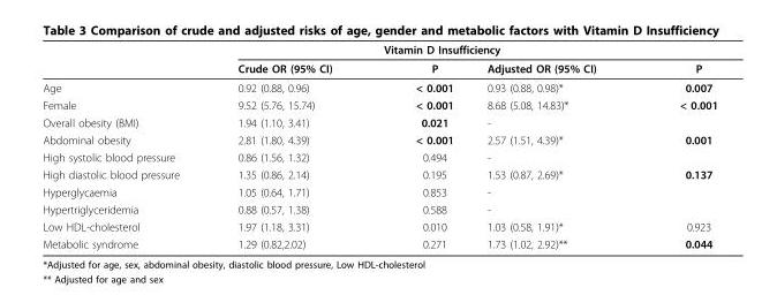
<table><thead><tr><td rowspan="2"></td><td colspan="3">Vitamin D Insufficiency</td><td rowspan="2">P</td></tr><tr><td>Crude OR (95% CI)</td><td>P</td><td>Adjusted OR (95% CI)</td></tr></thead><tbody><tr><td>Age</td><td>0.92 (0.88, 0.96)</td><td>&lt; 0.001</td><td>0.93 (0.88, 0.98)*</td><td>0.007</td></tr><tr><td>Female</td><td>9.52 (5.76, 15.74)</td><td>&lt; 0.001</td><td>8.68 (5.08, 14.83)*</td><td>&lt; 0.001</td></tr><tr><td>Overall obesity (BMI)</td><td>1.94 (1.10, 3.41)</td><td>0.021</td><td>-</td><td></td></tr><tr><td>Abdominal obesity</td><td>2.81 (1.80, 4.39)</td><td>&lt; 0.001</td><td>2.57 (1.51, 4.39)*</td><td>0.001</td></tr><tr><td>High systolic blood pressure</td><td>0.86 (1.56, 1.32)</td><td>0.494</td><td>-</td><td></td></tr><tr><td>High diastolic blood pressure</td><td>1.35 (0.86, 2.14)</td><td>0.195</td><td>1.53 (0.87, 2.69)*</td><td>0.137</td></tr><tr><td>Hyperglycaemia</td><td>1.05 (0.64, 1.71)</td><td>0.853</td><td>-</td><td></td></tr><tr><td>Hypertriglyceridemia</td><td>0.88 (0.57, 1.38)</td><td>0.588</td><td>-</td><td></td></tr><tr><td>Low HDL-cholesterol</td><td>1.97 (1.18, 3.31)</td><td>0.010</td><td>1.03 (0.58, 1.91)*</td><td>0.923</td></tr><tr><td>Metabolic syndrome</td><td>1.29 (0.82,2.02)</td><td>0.271</td><td>1.73 (1.02, 2.92)**</td><td>0.044</td></tr></tbody></table>